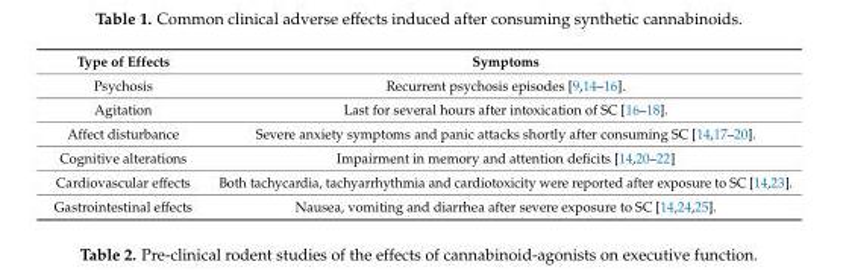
<table><thead><tr><td>Type of Effects</td><td>Symptoms</td></tr></thead><tbody><tr><td>Psychosis</td><td>Recurrent psychosis episodes [9,14–16].</td></tr><tr><td>Agitation</td><td>Last for several hours after intoxication of SC [16–18].</td></tr><tr><td>Affect disturbance</td><td>Severe anxiety symptoms and panic attacks shortly after consuming SC [14,17–20].</td></tr><tr><td>Cognitive alterations</td><td>Impairment in memory and attention deficits [14,20–22]</td></tr><tr><td>Cardiovascular effects</td><td>Both tachycardia, tachyarrhythmia and cardiotoxicity were reported after exposure to SC [14,23].</td></tr><tr><td>Gastrointestinal effects</td><td>Nausea, vomiting and diarrhea after severe exposure to SC [14,24,25].</td></tr></tbody></table>